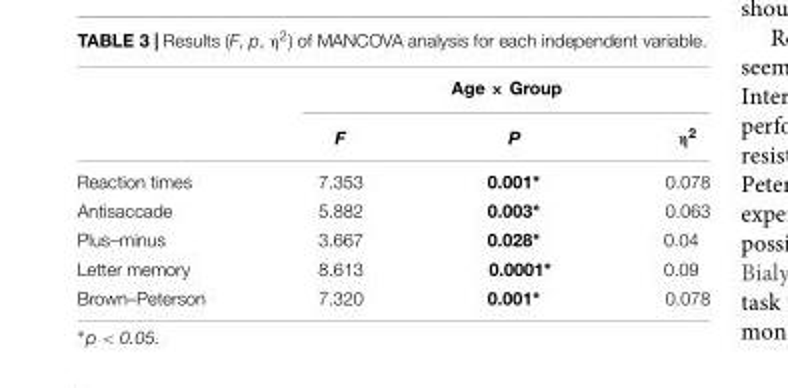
<table><thead><tr><td rowspan="2"></td><td colspan="3">Age × Group</td></tr><tr><td>F</td><td>P</td><td>η<sup>2</sup></td></tr></thead><tbody><tr><td>Reaction times</td><td>7.353</td><td>0.001∗</td><td>0.078</td></tr><tr><td>Antisaccade</td><td>5.882</td><td>0.003∗</td><td>0.063</td></tr><tr><td>Plus–minus</td><td>3.667</td><td>0.028∗</td><td>0.04</td></tr><tr><td>Letter memory</td><td>8.613</td><td>0.0001∗</td><td>0.09</td></tr><tr><td>Brown–Peterson</td><td>7.320</td><td>0.001∗</td><td>0.078</td></tr></tbody></table>